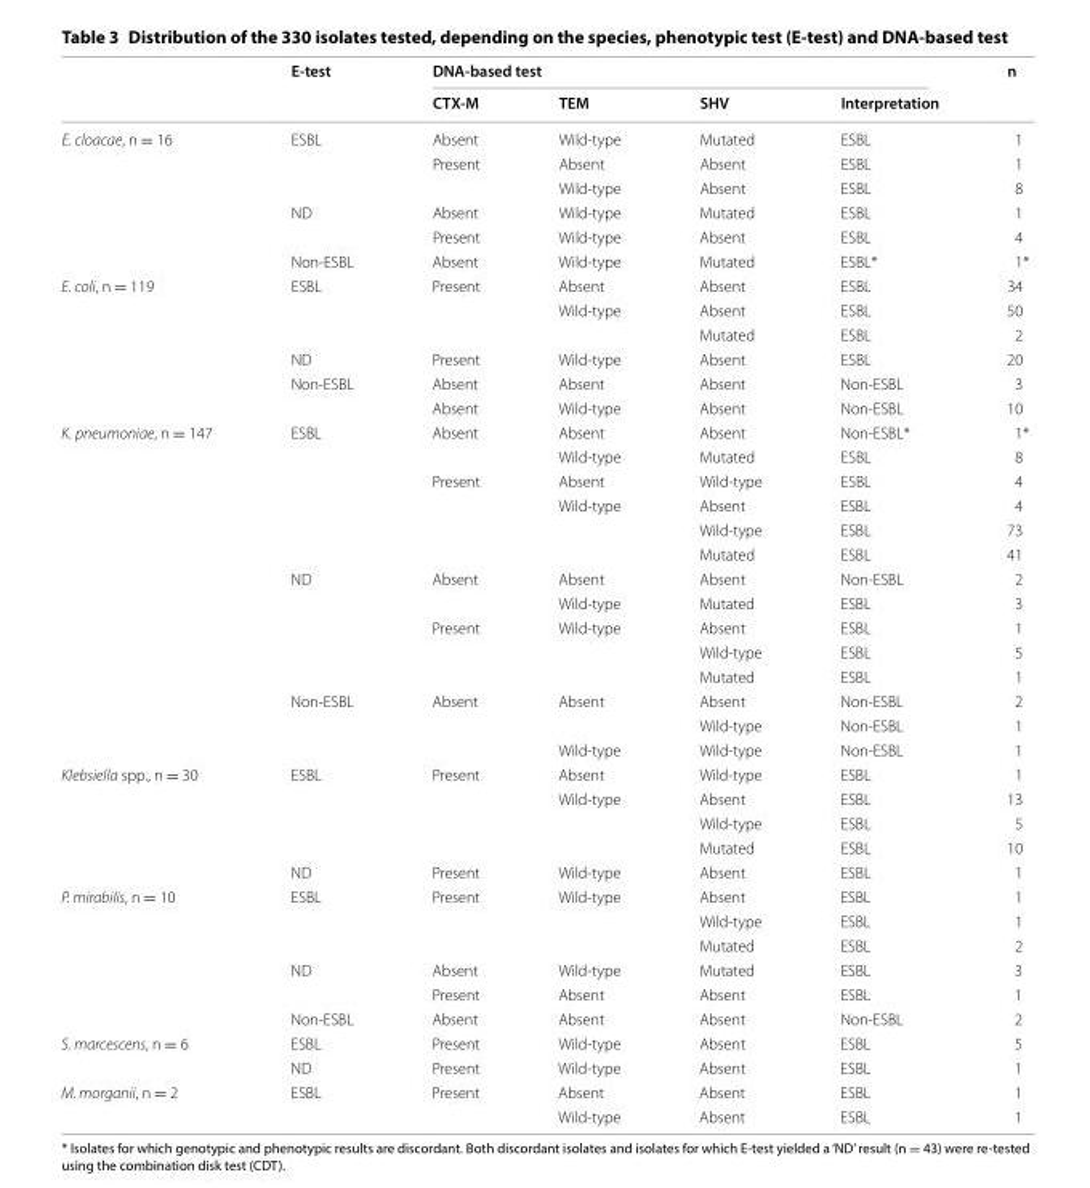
<table><thead><tr><td rowspan="2"></td><td rowspan="2">E‑test</td><td colspan="4">DNA‑based test</td><td rowspan="2">n</td></tr><tr><td>CTX‑M</td><td>TEM</td><td>SHV</td><td>Interpretation</td></tr></thead><tbody><tr><td rowspan="6">E. cloacae, n = 16</td><td rowspan="3">ESBL</td><td>Absent</td><td>Wild‑type</td><td>Mutated</td><td>ESBL</td><td>1</td></tr><tr><td rowspan="2">Present</td><td>Absent</td><td>Absent</td><td>ESBL</td><td>1</td></tr><tr><td>Wild‑type</td><td>Absent</td><td>ESBL</td><td>8</td></tr><tr><td rowspan="2">ND</td><td>Absent</td><td>Wild‑type</td><td>Mutated</td><td>ESBL</td><td>1</td></tr><tr><td>Present</td><td>Wild‑type</td><td>Absent</td><td>ESBL</td><td>4</td></tr><tr><td>Non‑ESBL</td><td>Absent</td><td>Wild‑type</td><td>Mutated</td><td>ESBL*</td><td>1*</td></tr><tr><td rowspan="6">E. coli, n = 119</td><td rowspan="3">ESBL</td><td rowspan="3">Present</td><td>Absent</td><td>Absent</td><td>ESBL</td><td>34</td></tr><tr><td rowspan="2">Wild‑type</td><td>Absent</td><td>ESBL</td><td>50</td></tr><tr><td>Mutated</td><td>ESBL</td><td>2</td></tr><tr><td>ND</td><td>Present</td><td>Wild‑type</td><td>Absent</td><td>ESBL</td><td>20</td></tr><tr><td rowspan="2">Non‑ESBL</td><td>Absent</td><td>Absent</td><td>Absent</td><td>Non‑ESBL</td><td>3</td></tr><tr><td>Absent</td><td>Wild‑type</td><td>Absent</td><td>Non‑ESBL</td><td>10</td></tr><tr><td rowspan="14">K. pneumoniae, n = 147</td><td rowspan="6">ESBL</td><td rowspan="2">Absent</td><td>Absent</td><td>Absent</td><td>Non‑ESBL*</td><td>1*</td></tr><tr><td>Wild‑type</td><td>Mutated</td><td>ESBL</td><td>8</td></tr><tr><td rowspan="4">Present</td><td>Absent</td><td>Wild‑type</td><td>ESBL</td><td>4</td></tr><tr><td rowspan="3">Wild‑type</td><td>Absent</td><td>ESBL</td><td>4</td></tr><tr><td>Wild‑type</td><td>ESBL</td><td>73</td></tr><tr><td>Mutated</td><td>ESBL</td><td>41</td></tr><tr><td rowspan="5">ND</td><td rowspan="2">Absent</td><td>Absent</td><td>Absent</td><td>Non‑ESBL</td><td>2</td></tr><tr><td>Wild‑type</td><td>Mutated</td><td>ESBL</td><td>3</td></tr><tr><td rowspan="3">Present</td><td rowspan="3">Wild‑type</td><td>Absent</td><td>ESBL</td><td>1</td></tr><tr><td>Wild‑type</td><td>ESBL</td><td>5</td></tr><tr><td>Mutated</td><td>ESBL</td><td>1</td></tr><tr><td rowspan="3">Non‑ESBL</td><td rowspan="3">Absent</td><td rowspan="2">Absent</td><td>Absent</td><td>Non‑ESBL</td><td>2</td></tr><tr><td>Wild‑type</td><td>Non‑ESBL</td><td>1</td></tr><tr><td>Wild‑type</td><td>Wild‑type</td><td>Non‑ESBL</td><td>1</td></tr><tr><td rowspan="5">Klebsiella spp., n = 30</td><td rowspan="4">ESBL</td><td rowspan="4">Present</td><td>Absent</td><td>Wild‑type</td><td>ESBL</td><td>1</td></tr><tr><td rowspan="3">Wild‑type</td><td>Absent</td><td>ESBL</td><td>13</td></tr><tr><td>Wild‑type</td><td>ESBL</td><td>5</td></tr><tr><td>Mutated</td><td>ESBL</td><td>10</td></tr><tr><td>ND</td><td>Present</td><td>Wild‑type</td><td>Absent</td><td>ESBL</td><td>1</td></tr><tr><td rowspan="6">P. mirabilis, n = 10</td><td rowspan="3">ESBL</td><td rowspan="3">Present</td><td rowspan="3">Wild‑type</td><td>Absent</td><td>ESBL</td><td>1</td></tr><tr><td>Wild‑type</td><td>ESBL</td><td>1</td></tr><tr><td>Mutated</td><td>ESBL</td><td>2</td></tr><tr><td rowspan="2">ND</td><td>Absent</td><td>Wild‑type</td><td>Mutated</td><td>ESBL</td><td>3</td></tr><tr><td>Present</td><td>Absent</td><td>Absent</td><td>ESBL</td><td>1</td></tr><tr><td>Non‑ESBL</td><td>Absent</td><td>Absent</td><td>Absent</td><td>Non‑ESBL</td><td>2</td></tr><tr><td rowspan="2">S. marcescens, n = 6</td><td>ESBL</td><td>Present</td><td>Wild‑type</td><td>Absent</td><td>ESBL</td><td>5</td></tr><tr><td>ND</td><td>Present</td><td>Wild‑type</td><td>Absent</td><td>ESBL</td><td>1</td></tr><tr><td rowspan="2">M. morganii, n = 2</td><td rowspan="2">ESBL</td><td rowspan="2">Present</td><td>Absent</td><td>Absent</td><td>ESBL</td><td>1</td></tr><tr><td>Wild‑type</td><td>Absent</td><td>ESBL</td><td>1</td></tr></tbody></table>